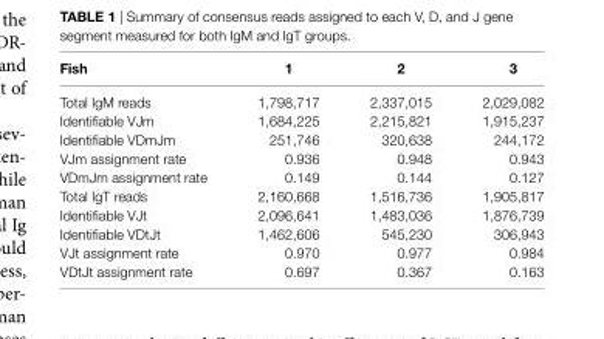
<table><thead><tr><td>Fish</td><td>1</td><td>2</td><td>3</td></tr></thead><tbody><tr><td>Total IgM reads</td><td>1,798,717</td><td>2,337,015</td><td>2,029,082</td></tr><tr><td>Identifiable VJm</td><td>1,684,225</td><td>2,215,821</td><td>1,915,237</td></tr><tr><td>Identifiable VDmJm</td><td>251,746</td><td>320,638</td><td>244,172</td></tr><tr><td>VJm assignment rate</td><td>0.936</td><td>0.948</td><td>0.943</td></tr><tr><td>VDmJm assignment rate</td><td>0.149</td><td>0.144</td><td>0.127</td></tr><tr><td>Total IgT reads</td><td>2,160,668</td><td>1,516,736</td><td>1,905,817</td></tr><tr><td>Identifiable VJt</td><td>2,096,641</td><td>1,483,036</td><td>1,876,739</td></tr><tr><td>Identifiable VDtJt</td><td>1,462,606</td><td>545,230</td><td>306,943</td></tr><tr><td>VJt assignment rate</td><td>0.970</td><td>0.977</td><td>0.984</td></tr><tr><td>VDtJt assignment rate</td><td>0.697</td><td>0.367</td><td>0.163</td></tr></tbody></table>